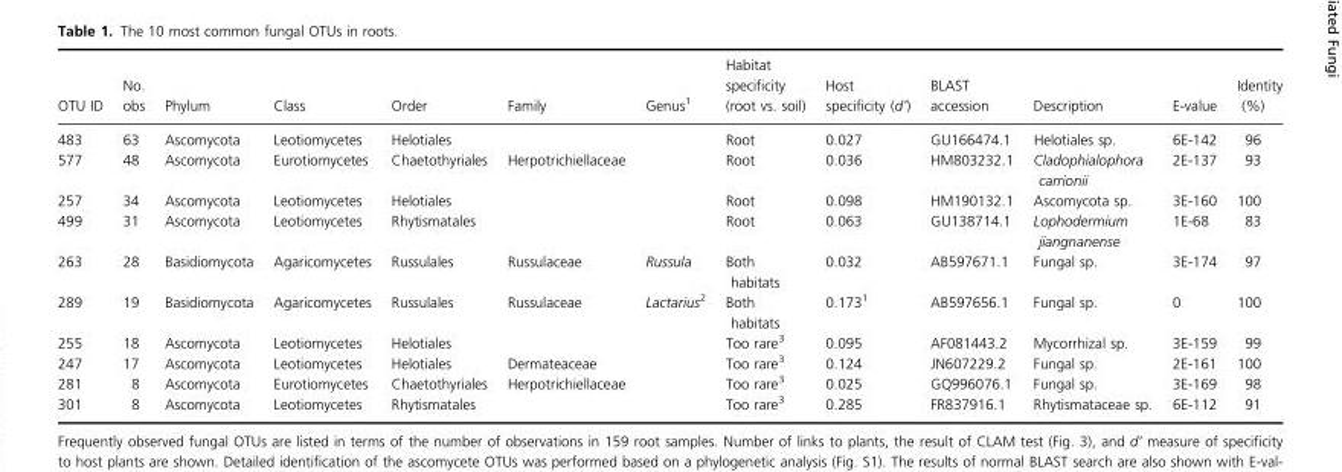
<table><thead><tr><td>OTU ID</td><td>No. obs</td><td>Phylum</td><td>Class</td><td>Order</td><td>Family</td><td>Genus<sup>1</sup></td><td>Habitat specificity (root vs. soil)</td><td>Host specificity (d’)</td><td>BLAST accession</td><td>Description</td><td>E-value</td><td>Identity (%)</td></tr></thead><tbody><tr><td>483</td><td>63</td><td>Ascomycota</td><td>Leotiomycetes</td><td>Helotiales</td><td></td><td></td><td>Root</td><td>0.027</td><td>GU166474.1</td><td>Helotiales sp.</td><td>6E-142</td><td>96</td></tr><tr><td>577</td><td>48</td><td>Ascomycota</td><td>Eurotiomycetes</td><td>Chaetothyriales</td><td>Herpotrichiellaceae</td><td></td><td>Root</td><td>0.036</td><td>HM803232.1</td><td>Cladophialophora carrionii</td><td>2E-137</td><td>93</td></tr><tr><td>257</td><td>34</td><td>Ascomycota</td><td>Leotiomycetes</td><td>Helotiales</td><td></td><td></td><td>Root</td><td>0.098</td><td>HM190132.1</td><td>Ascomycota sp.</td><td>3E-160</td><td>100</td></tr><tr><td>499</td><td>31</td><td>Ascomycota</td><td>Leotiomycetes</td><td>Rhytismatales</td><td></td><td></td><td>Root</td><td>0.063</td><td>GU138714.1</td><td>Lophodermium jiangnanense</td><td>1E-68</td><td>83</td></tr><tr><td>263</td><td>28</td><td>Basidiomycota</td><td>Agaricomycetes</td><td>Russulales</td><td>Russulaceae</td><td>Russula</td><td>Both habitats</td><td>0.032</td><td>AB597671.1</td><td>Fungal sp.</td><td>3E-174</td><td>97</td></tr><tr><td>289</td><td>19</td><td>Basidiomycota</td><td>Agaricomycetes</td><td>Russulales</td><td>Russulaceae</td><td>Lactarius<sup>2</sup></td><td>Both habitats</td><td>0.173<sup>1</sup></td><td>AB597656.1</td><td>Fungal sp.</td><td>0</td><td>100</td></tr><tr><td>255</td><td>18</td><td>Ascomycota</td><td>Leotiomycetes</td><td>Helotiales</td><td></td><td></td><td>Too rare<sup>3</sup></td><td>0.095</td><td>AF081443.2</td><td>Mycorrhizal sp.</td><td>3E-159</td><td>99</td></tr><tr><td>247</td><td>17</td><td>Ascomycota</td><td>Leotiomycetes</td><td>Helotiales</td><td>Dermateaceae</td><td></td><td>Too rare<sup>3</sup></td><td>0.124</td><td>JN607229.2</td><td>Fungal sp.</td><td>2E-161</td><td>100</td></tr><tr><td>281</td><td>8</td><td>Ascomycota</td><td>Eurotiomycetes</td><td>Chaetothyriales</td><td>Herpotrichiellaceae</td><td></td><td>Too rare<sup>3</sup></td><td>0.025</td><td>GQ996076.1</td><td>Fungal sp.</td><td>3E-169</td><td>98</td></tr><tr><td>301</td><td>8</td><td>Ascomycota</td><td>Leotiomycetes</td><td>Rhytismatales</td><td></td><td></td><td>Too rare<sup>3</sup></td><td>0.285</td><td>FR837916.1</td><td>Rhytismataceae sp.</td><td>6E-112</td><td>91</td></tr></tbody></table>